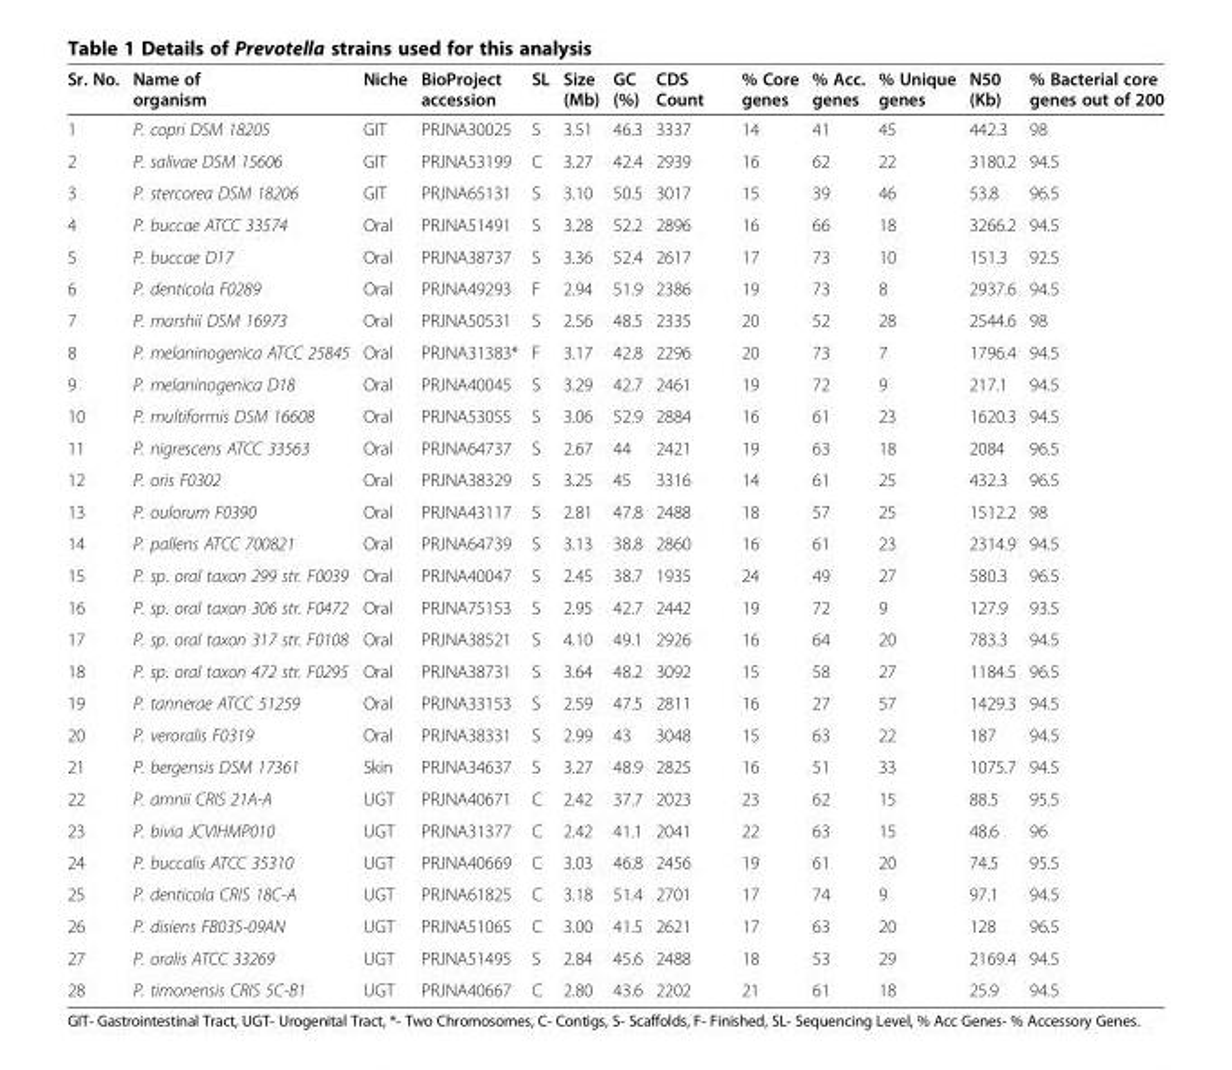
<table><thead><tr><td>Sr. No.</td><td>Name of organism</td><td>Niche</td><td>BioProject accession</td><td>SL</td><td>Size (Mb)</td><td>GC (%)</td><td>CDS Count</td><td>% Core genes</td><td>% Acc. genes</td><td>% Unique genes</td><td>N50 (Kb)</td><td>% Bacterial core genes out of 200</td></tr></thead><tbody><tr><td>1</td><td>P. copri DSM 18205</td><td>GIT</td><td>PRJNA30025</td><td>S</td><td>3.51</td><td>46.3</td><td>3337</td><td>14</td><td>41</td><td>45</td><td>442.3</td><td>98</td></tr><tr><td>2</td><td>P. salivae DSM 15606</td><td>GIT</td><td>PRJNA53199</td><td>C</td><td>3.27</td><td>42.4</td><td>2939</td><td>16</td><td>62</td><td>22</td><td>3180.2</td><td>94.5</td></tr><tr><td>3</td><td>P. stercorea DSM 18206</td><td>GIT</td><td>PRJNA65131</td><td>S</td><td>3.10</td><td>50.5</td><td>3017</td><td>15</td><td>39</td><td>46</td><td>53.8</td><td>96.5</td></tr><tr><td>4</td><td>P. buccae ATCC 33574</td><td>Oral</td><td>PRJNA51491</td><td>S</td><td>3.28</td><td>52.2</td><td>2896</td><td>16</td><td>66</td><td>18</td><td>3266.2</td><td>94.5</td></tr><tr><td>5</td><td>P. buccae D17</td><td>Oral</td><td>PRJNA38737</td><td>S</td><td>3.36</td><td>52.4</td><td>2617</td><td>17</td><td>73</td><td>10</td><td>151.3</td><td>92.5</td></tr><tr><td>6</td><td>P. denticola F0289</td><td>Oral</td><td>PRJNA49293</td><td>F</td><td>2.94</td><td>51.9</td><td>2386</td><td>19</td><td>73</td><td>8</td><td>2937.6</td><td>94.5</td></tr><tr><td>7</td><td>P. marshii DSM 16973</td><td>Oral</td><td>PRJNA50531</td><td>S</td><td>2.56</td><td>48.5</td><td>2335</td><td>20</td><td>52</td><td>28</td><td>2544.6</td><td>98</td></tr><tr><td>8</td><td>P. melaninogenica ATCC 25845</td><td>Oral</td><td>PRJNA31383*</td><td>F</td><td>3.17</td><td>42.8</td><td>2296</td><td>20</td><td>73</td><td>7</td><td>1796.4</td><td>94.5</td></tr><tr><td>9</td><td>P. melaninogenica D18</td><td>Oral</td><td>PRJNA40045</td><td>S</td><td>3.29</td><td>42.7</td><td>2461</td><td>19</td><td>72</td><td>9</td><td>217.1</td><td>94.5</td></tr><tr><td>10</td><td>P. multiformis DSM 16608</td><td>Oral</td><td>PRJNA53055</td><td>S</td><td>3.06</td><td>52.9</td><td>2884</td><td>16</td><td>61</td><td>23</td><td>1620.3</td><td>94.5</td></tr><tr><td>11</td><td>P. nigrescens ATCC 33563</td><td>Oral</td><td>PRJNA64737</td><td>S</td><td>2.67</td><td>44</td><td>2421</td><td>19</td><td>63</td><td>18</td><td>2084</td><td>96.5</td></tr><tr><td>12</td><td>P. oris F0302</td><td>Oral</td><td>PRJNA38329</td><td>S</td><td>3.25</td><td>45</td><td>3316</td><td>14</td><td>61</td><td>25</td><td>432.3</td><td>96.5</td></tr><tr><td>13</td><td>P. oulorum F0390</td><td>Oral</td><td>PRJNA43117</td><td>S</td><td>2.81</td><td>47.8</td><td>2488</td><td>18</td><td>57</td><td>25</td><td>1512.2</td><td>98</td></tr><tr><td>14</td><td>P. pallens ATCC 700821</td><td>Oral</td><td>PRJNA64739</td><td>S</td><td>3.13</td><td>38.8</td><td>2860</td><td>16</td><td>61</td><td>23</td><td>2314.9</td><td>94.5</td></tr><tr><td>15</td><td>P. sp. oral taxon 299 str. F0039</td><td>Oral</td><td>PRJNA40047</td><td>S</td><td>2.45</td><td>38.7</td><td>1935</td><td>24</td><td>49</td><td>27</td><td>580.3</td><td>96.5</td></tr><tr><td>16</td><td>P. sp. oral taxon 306 str. F0472</td><td>Oral</td><td>PRJNA75153</td><td>S</td><td>2.95</td><td>42.7</td><td>2442</td><td>19</td><td>72</td><td>9</td><td>127.9</td><td>93.5</td></tr><tr><td>17</td><td>P. sp. oral taxon 317 str. F0108</td><td>Oral</td><td>PRJNA38521</td><td>S</td><td>4.10</td><td>49.1</td><td>2926</td><td>16</td><td>64</td><td>20</td><td>783.3</td><td>94.5</td></tr><tr><td>18</td><td>P. sp. oral taxon 472 str. F0295</td><td>Oral</td><td>PRJNA38731</td><td>S</td><td>3.64</td><td>48.2</td><td>3092</td><td>15</td><td>58</td><td>27</td><td>1184.5</td><td>96.5</td></tr><tr><td>19</td><td>P. tannerae ATCC 51259</td><td>Oral</td><td>PRJNA33153</td><td>S</td><td>2.59</td><td>47.5</td><td>2811</td><td>16</td><td>27</td><td>57</td><td>1429.3</td><td>94.5</td></tr><tr><td>20</td><td>P. veroralis F0319</td><td>Oral</td><td>PRJNA38331</td><td>S</td><td>2.99</td><td>43</td><td>3048</td><td>15</td><td>63</td><td>22</td><td>187</td><td>94.5</td></tr><tr><td>21</td><td>P. bergensis DSM 17361</td><td>Skin</td><td>PRJNA34637</td><td>S</td><td>3.27</td><td>48.9</td><td>2825</td><td>16</td><td>51</td><td>33</td><td>1075.7</td><td>94.5</td></tr><tr><td>22</td><td>P. amnii CRIS 21A-A</td><td>UGT</td><td>PRJNA40671</td><td>C</td><td>2.42</td><td>37.7</td><td>2023</td><td>23</td><td>62</td><td>15</td><td>88.5</td><td>95.5</td></tr><tr><td>23</td><td>P. bivia JCVIHMP010</td><td>UGT</td><td>PRJNA31377</td><td>C</td><td>2.42</td><td>41.1</td><td>2041</td><td>22</td><td>63</td><td>15</td><td>48.6</td><td>96</td></tr><tr><td>24</td><td>P. buccalis ATCC 35310</td><td>UGT</td><td>PRJNA40669</td><td>C</td><td>3.03</td><td>46.8</td><td>2456</td><td>19</td><td>61</td><td>20</td><td>74.5</td><td>95.5</td></tr><tr><td>25</td><td>P. denticola CRIS 18C-A</td><td>UGT</td><td>PRJNA61825</td><td>C</td><td>3.18</td><td>51.4</td><td>2701</td><td>17</td><td>74</td><td>9</td><td>97.1</td><td>94.5</td></tr><tr><td>26</td><td>P. disiens FB035-09AN</td><td>UGT</td><td>PRJNA51065</td><td>C</td><td>3.00</td><td>41.5</td><td>2621</td><td>17</td><td>63</td><td>20</td><td>128</td><td>96.5</td></tr><tr><td>27</td><td>P. oralis ATCC 33269</td><td>UGT</td><td>PRJNA51495</td><td>S</td><td>2.84</td><td>45.6</td><td>2488</td><td>18</td><td>53</td><td>29</td><td>2169.4</td><td>94.5</td></tr><tr><td>28</td><td>P. timonensis CRIS 5C-B1</td><td>UGT</td><td>PRJNA40667</td><td>C</td><td>2.80</td><td>43.6</td><td>2202</td><td>21</td><td>61</td><td>18</td><td>25.9</td><td>94.5</td></tr></tbody></table>